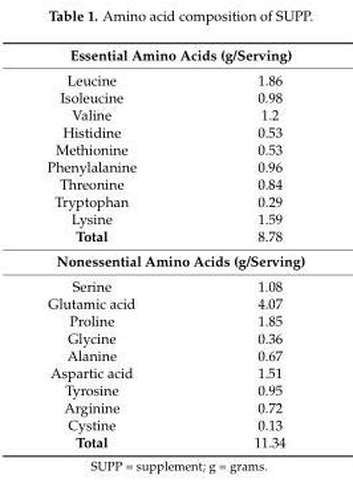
<table><tbody><tr><td colspan="2">Essential Amino Acids (g/Serving)</td></tr><tr><td>Leucine</td><td>1.86</td></tr><tr><td>Isoleucine</td><td>0.98</td></tr><tr><td>Valine</td><td>1.2</td></tr><tr><td>Histidine</td><td>0.53</td></tr><tr><td>Methionine</td><td>0.53</td></tr><tr><td>Phenylalanine</td><td>0.96</td></tr><tr><td>Threonine</td><td>0.84</td></tr><tr><td>Tryptophan</td><td>0.29</td></tr><tr><td>Lysine</td><td>1.59</td></tr><tr><td>Total</td><td>8.78</td></tr><tr><td colspan="2">Nonessential Amino Acids (g/Serving)</td></tr><tr><td>Serine</td><td>1.08</td></tr><tr><td>Glutamic acid</td><td>4.07</td></tr><tr><td>Proline</td><td>1.85</td></tr><tr><td>Glycine</td><td>0.36</td></tr><tr><td>Alanine</td><td>0.67</td></tr><tr><td>Aspartic acid</td><td>1.51</td></tr><tr><td>Tyrosine</td><td>0.95</td></tr><tr><td>Arginine</td><td>0.72</td></tr><tr><td>Cystine</td><td>0.13</td></tr><tr><td>Total</td><td>11.34</td></tr></tbody></table>